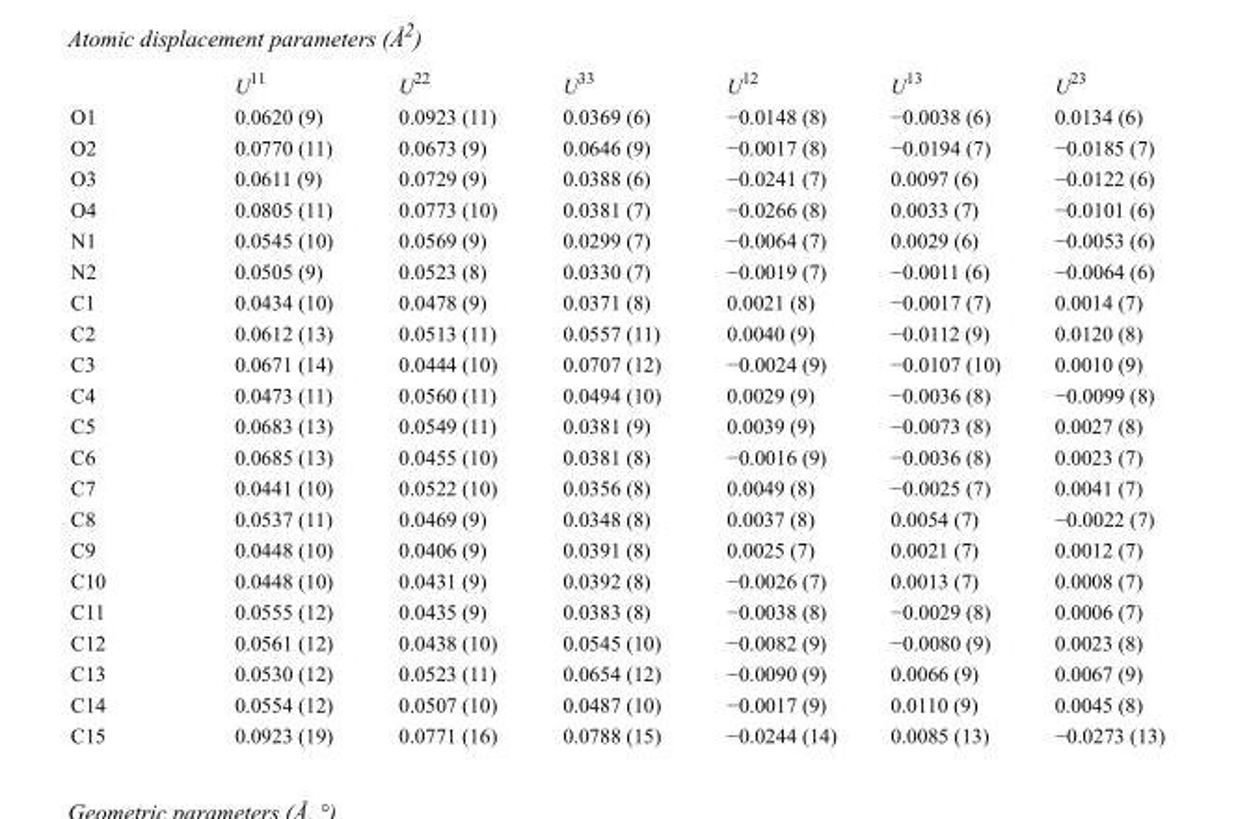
<table><thead><tr><td></td><td>U<sup>11</sup></td><td>U<sup>22</sup></td><td>U<sup>33</sup></td><td>U<sup>12</sup></td><td>U<sup>13</sup></td><td>U<sup>23</sup></td></tr></thead><tbody><tr><td>O1</td><td>0.0620 (9)</td><td>0.0923 (11)</td><td>0.0369 (6)</td><td>−0.0148 (8)</td><td>−0.0038 (6)</td><td>0.0134 (6)</td></tr><tr><td>O2</td><td>0.0770 (11)</td><td>0.0673 (9)</td><td>0.0646 (9)</td><td>−0.0017 (8)</td><td>−0.0194 (7)</td><td>−0.0185 (7)</td></tr><tr><td>O3</td><td>0.0611 (9)</td><td>0.0729 (9)</td><td>0.0388 (6)</td><td>−0.0241 (7)</td><td>0.0097 (6)</td><td>−0.0122 (6)</td></tr><tr><td>O4</td><td>0.0805 (11)</td><td>0.0773 (10)</td><td>0.0381 (7)</td><td>−0.0266 (8)</td><td>0.0033 (7)</td><td>−0.0101 (6)</td></tr><tr><td>N1</td><td>0.0545 (10)</td><td>0.0569 (9)</td><td>0.0299 (7)</td><td>−0.0064 (7)</td><td>0.0029 (6)</td><td>−0.0053 (6)</td></tr><tr><td>N2</td><td>0.0505 (9)</td><td>0.0523 (8)</td><td>0.0330 (7)</td><td>−0.0019 (7)</td><td>−0.0011 (6)</td><td>−0.0064 (6)</td></tr><tr><td>C1</td><td>0.0434 (10)</td><td>0.0478 (9)</td><td>0.0371 (8)</td><td>0.0021 (8)</td><td>−0.0017 (7)</td><td>0.0014 (7)</td></tr><tr><td>C2</td><td>0.0612 (13)</td><td>0.0513 (11)</td><td>0.0557 (11)</td><td>0.0040 (9)</td><td>−0.0112 (9)</td><td>0.0120 (8)</td></tr><tr><td>C3</td><td>0.0671 (14)</td><td>0.0444 (10)</td><td>0.0707 (12)</td><td>−0.0024 (9)</td><td>−0.0107 (10)</td><td>0.0010 (9)</td></tr><tr><td>C4</td><td>0.0473 (11)</td><td>0.0560 (11)</td><td>0.0494 (10)</td><td>0.0029 (9)</td><td>−0.0036 (8)</td><td>−0.0099 (8)</td></tr><tr><td>C5</td><td>0.0683 (13)</td><td>0.0549 (11)</td><td>0.0381 (9)</td><td>0.0039 (9)</td><td>−0.0073 (8)</td><td>0.0027 (8)</td></tr><tr><td>C6</td><td>0.0685 (13)</td><td>0.0455 (10)</td><td>0.0381 (8)</td><td>−0.0016 (9)</td><td>−0.0036 (8)</td><td>0.0023 (7)</td></tr><tr><td>C7</td><td>0.0441 (10)</td><td>0.0522 (10)</td><td>0.0356 (8)</td><td>0.0049 (8)</td><td>−0.0025 (7)</td><td>0.0041 (7)</td></tr><tr><td>C8</td><td>0.0537 (11)</td><td>0.0469 (9)</td><td>0.0348 (8)</td><td>0.0037 (8)</td><td>0.0054 (7)</td><td>−0.0022 (7)</td></tr><tr><td>C9</td><td>0.0448 (10)</td><td>0.0406 (9)</td><td>0.0391 (8)</td><td>0.0025 (7)</td><td>0.0021 (7)</td><td>0.0012 (7)</td></tr><tr><td>C10</td><td>0.0448 (10)</td><td>0.0431 (9)</td><td>0.0392 (8)</td><td>−0.0026 (7)</td><td>0.0013 (7)</td><td>0.0008 (7)</td></tr><tr><td>C11</td><td>0.0555 (12)</td><td>0.0435 (9)</td><td>0.0383 (8)</td><td>−0.0038 (8)</td><td>−0.0029 (8)</td><td>0.0006 (7)</td></tr><tr><td>C12</td><td>0.0561 (12)</td><td>0.0438 (10)</td><td>0.0545 (10)</td><td>−0.0082 (9)</td><td>−0.0080 (9)</td><td>0.0023 (8)</td></tr><tr><td>C13</td><td>0.0530 (12)</td><td>0.0523 (11)</td><td>0.0654 (12)</td><td>−0.0090 (9)</td><td>0.0066 (9)</td><td>0.0067 (9)</td></tr><tr><td>C14</td><td>0.0554 (12)</td><td>0.0507 (10)</td><td>0.0487 (10)</td><td>−0.0017 (9)</td><td>0.0110 (9)</td><td>0.0045 (8)</td></tr><tr><td>C15</td><td>0.0923 (19)</td><td>0.0771 (16)</td><td>0.0788 (15)</td><td>−0.0244 (14)</td><td>0.0085 (13)</td><td>−0.0273 (13)</td></tr></tbody></table>